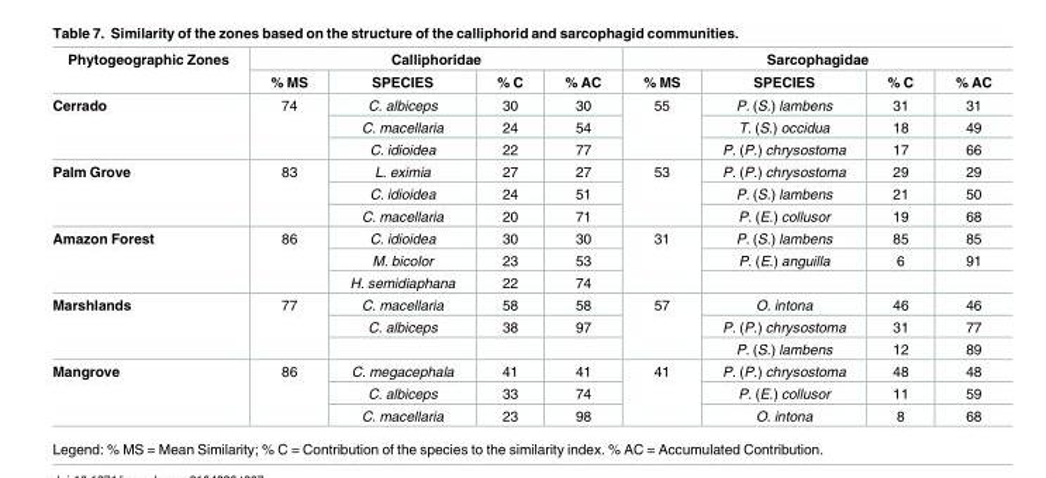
<table><thead><tr><td rowspan="2">Phytogeographic Zones</td><td colspan="4">Calliphoridae</td><td colspan="4">Sarcophagidae</td></tr><tr><td>% MS</td><td>SPECIES</td><td>% C</td><td>% AC</td><td>% MS</td><td>SPECIES</td><td>% C</td><td>% AC</td></tr></thead><tbody><tr><td rowspan="3">Cerrado</td><td rowspan="3">74</td><td>C. albiceps</td><td>30</td><td>30</td><td rowspan="3">55</td><td>P. (S.) lambens</td><td>31</td><td>31</td></tr><tr><td>C. macellaria</td><td>24</td><td>54</td><td>T. (S.) occidua</td><td>18</td><td>49</td></tr><tr><td>C. idioidea</td><td>22</td><td>77</td><td>P. (P.) chrysostoma</td><td>17</td><td>66</td></tr><tr><td rowspan="3">Palm Grove</td><td rowspan="3">83</td><td>L. eximia</td><td>27</td><td>27</td><td rowspan="3">53</td><td>P. (P.) chrysostoma</td><td>29</td><td>29</td></tr><tr><td>C. idioidea</td><td>24</td><td>51</td><td>P. (S.) lambens</td><td>21</td><td>50</td></tr><tr><td>C. macellaria</td><td>20</td><td>71</td><td>P. (E.) collusor</td><td>19</td><td>68</td></tr><tr><td rowspan="3">Amazon Forest</td><td rowspan="3">86</td><td>C. idioidea</td><td>30</td><td>30</td><td rowspan="3">31</td><td>P. (S.) lambens</td><td>85</td><td>85</td></tr><tr><td>M. bicolor</td><td>23</td><td>53</td><td>P. (E.) anguilla</td><td>6</td><td>91</td></tr><tr><td>H. semidiaphana</td><td>22</td><td>74</td><td></td><td></td><td></td></tr><tr><td rowspan="3">Marshlands</td><td rowspan="3">77</td><td>C. macellaria</td><td>58</td><td>58</td><td rowspan="3">57</td><td>O. intona</td><td>46</td><td>46</td></tr><tr><td>C. albiceps</td><td>38</td><td>97</td><td>P. (P.) chrysostoma</td><td>31</td><td>77</td></tr><tr><td></td><td></td><td></td><td>P. (S.) lambens</td><td>12</td><td>89</td></tr><tr><td rowspan="3">Mangrove</td><td rowspan="3">86</td><td>C. megacephala</td><td>41</td><td>41</td><td rowspan="3">41</td><td>P. (P.) chrysostoma</td><td>48</td><td>48</td></tr><tr><td>C. albiceps</td><td>33</td><td>74</td><td>P. (E.) collusor</td><td>11</td><td>59</td></tr><tr><td>C. macellaria</td><td>23</td><td>98</td><td>O. intona</td><td>8</td><td>68</td></tr></tbody></table>